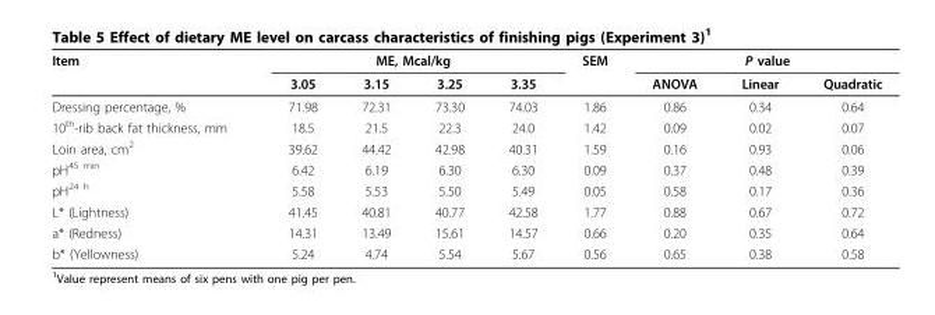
<table><thead><tr><td rowspan="2">Item</td><td colspan="4">ME, Mcal/kg</td><td rowspan="2">SEM</td><td colspan="3">P value</td></tr><tr><td>3.05</td><td>3.15</td><td>3.25</td><td>3.35</td><td>ANOVA</td><td>Linear</td><td>Quadratic</td></tr></thead><tbody><tr><td>Dressing percentage, %</td><td>71.98</td><td>72.31</td><td>73.30</td><td>74.03</td><td>1.86</td><td>0.86</td><td>0.34</td><td>0.64</td></tr><tr><td>10<sup>th</sup>-rib back fat thickness, mm</td><td>18.5</td><td>21.5</td><td>22.3</td><td>24.0</td><td>1.42</td><td>0.09</td><td>0.02</td><td>0.07</td></tr><tr><td>Loin area, cm<sup>2</sup></td><td>39.62</td><td>44.42</td><td>42.98</td><td>40.31</td><td>1.59</td><td>0.16</td><td>0.93</td><td>0.06</td></tr><tr><td>pH<sup>45 min</sup></td><td>6.42</td><td>6.19</td><td>6.30</td><td>6.30</td><td>0.09</td><td>0.37</td><td>0.48</td><td>0.39</td></tr><tr><td>pH<sup>24 h</sup></td><td>5.58</td><td>5.53</td><td>5.50</td><td>5.49</td><td>0.05</td><td>0.58</td><td>0.17</td><td>0.36</td></tr><tr><td>L* (Lightness)</td><td>41.45</td><td>40.81</td><td>40.77</td><td>42.58</td><td>1.77</td><td>0.88</td><td>0.67</td><td>0.72</td></tr><tr><td>a* (Redness)</td><td>14.31</td><td>13.49</td><td>15.61</td><td>14.57</td><td>0.66</td><td>0.20</td><td>0.35</td><td>0.64</td></tr><tr><td>b* (Yellowness)</td><td>5.24</td><td>4.74</td><td>5.54</td><td>5.67</td><td>0.56</td><td>0.65</td><td>0.38</td><td>0.58</td></tr></tbody></table>